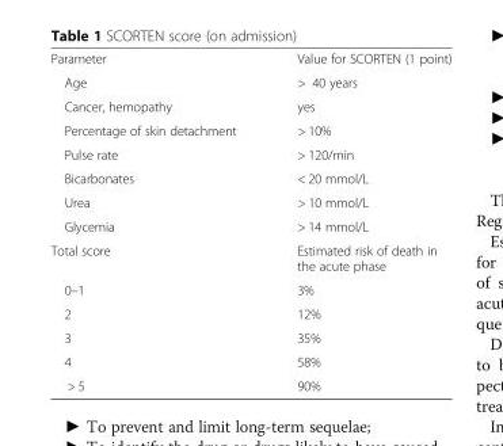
<table><tbody><tr><td>Parameter</td><td>Value for SCORTEN (1 point)</td></tr><tr><td>Age</td><td>&gt; 40 years</td></tr><tr><td>Cancer, hemopathy</td><td>yes</td></tr><tr><td>Percentage of skin detachment</td><td>&gt; 10%</td></tr><tr><td>Pulse rate</td><td>&gt; 120/min</td></tr><tr><td>Bicarbonates</td><td>&lt; 20 mmol/L</td></tr><tr><td>Urea</td><td>&gt; 10 mmol/L</td></tr><tr><td>Glycemia</td><td>&gt; 14 mmol/L</td></tr><tr><td>Total score</td><td>Estimated risk of death in the acute phase</td></tr><tr><td>0–1</td><td>3%</td></tr><tr><td>2</td><td>12%</td></tr><tr><td>3</td><td>35%</td></tr><tr><td>4</td><td>58%</td></tr><tr><td>&gt; 5</td><td>90%</td></tr></tbody></table>